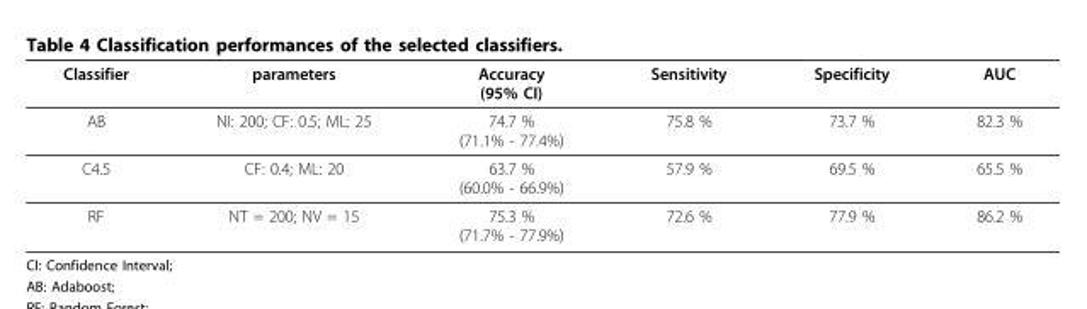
<table><thead><tr><td>Classifier</td><td>parameters</td><td>Accuracy (95% CI)</td><td>Sensitivity</td><td>Specificity</td><td>AUC</td></tr></thead><tbody><tr><td>AB</td><td>NI: 200; CF: 0.5; ML: 25</td><td>74.7 % (71.1% - 77.4%)</td><td>75.8 %</td><td>73.7 %</td><td>82.3 %</td></tr><tr><td>C4.5</td><td>CF: 0.4; ML: 20</td><td>63.7 % (60.0% - 66.9%)</td><td>57.9 %</td><td>69.5 %</td><td>65.5 %</td></tr><tr><td>RF</td><td>NT = 200; NV = 15</td><td>75.3 % (71.7% - 77.9%)</td><td>72.6 %</td><td>77.9 %</td><td>86.2 %</td></tr></tbody></table>